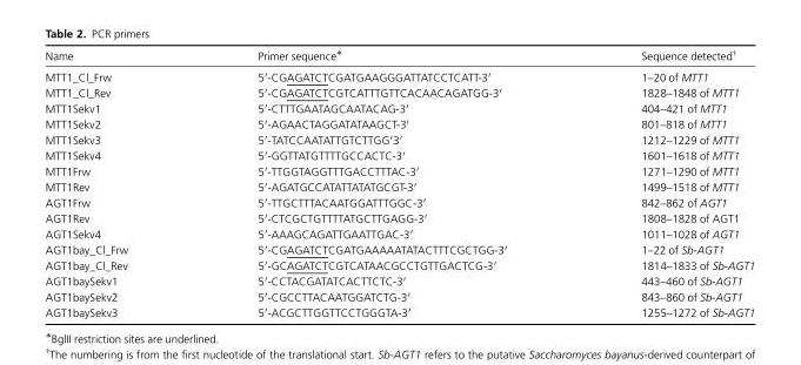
<table><thead><tr><td>Name</td><td>Primer sequence*</td><td>Sequence detected†</td></tr></thead><tbody><tr><td>MTT1_Cl_Frw</td><td>5′-CGAGATCTCGATGAAGGGATTATCCTCATT-3′</td><td>1–20 of MTT1</td></tr><tr><td>MTT1_Cl_Rev</td><td>5′-CGAGATCTCGTCATTTGTTCACAACAGATGG-3′</td><td>1828–1848 of MTT1</td></tr><tr><td>MTT1Sekv1</td><td>5′-CTTTGAATAGCAATACAG-3′</td><td>404–421 of MTT1</td></tr><tr><td>MTT1Sekv2</td><td>5′-AGAACTAGGATATAAGCT-3′</td><td>801–818 of MTT1</td></tr><tr><td>MTT1Sekv3</td><td>5′-TATCCAATATTGTCTTGG′3′</td><td>1212–1229 of MTT1</td></tr><tr><td>MTT1Sekv4</td><td>5′-GGTTATGTTTTGCCACTC-3′</td><td>1601–1618 of MTT1</td></tr><tr><td>MTT1Frw</td><td>5′-TTGGTAGGTTTGACCTTTAC-3′</td><td>1271–1290 of MTT1</td></tr><tr><td>MTT1Rev</td><td>5′-AGATGCCATATTATATGCGT-3′</td><td>1499–1518 of MTT1</td></tr><tr><td>AGT1Frw</td><td>5′-TTGCTTTACAATGGATTTGGC-3′</td><td>842–862 of AGT1</td></tr><tr><td>AGT1Rev</td><td>5′-CTCGCTGTTTTATGCTTGAGG-3′</td><td>1808–1828 of AGT1</td></tr><tr><td>AGT1Sekv4</td><td>5′-AAAGCAGATTGAATTGAC-3′</td><td>1011–1028 of AGT1</td></tr><tr><td>AGT1bay_Cl_Frw</td><td>5′-CGAGATCTCGATGAAAAATATACTTTCGCTGG-3′</td><td>1–22 of Sb-AGT1</td></tr><tr><td>AGT1bay_Cl_Rev</td><td>5′-GCAGATCTCGTCATAACGCCTGTTGACTCG-3′</td><td>1814–1833 of Sb-AGT1</td></tr><tr><td>AGT1baySekv1</td><td>5′-CCTACGATATCACTTCTC-3′</td><td>443–460 of Sb-AGT1</td></tr><tr><td>AGT1baySekv2</td><td>5′-CGCCTTACAATGGATCTG-3′</td><td>843–860 of Sb-AGT1</td></tr><tr><td>AGT1baySekv3</td><td>5′-ACGCTTGGTTCCTGGGTA-3′</td><td>1255–1272 of Sb-AGT1</td></tr></tbody></table>